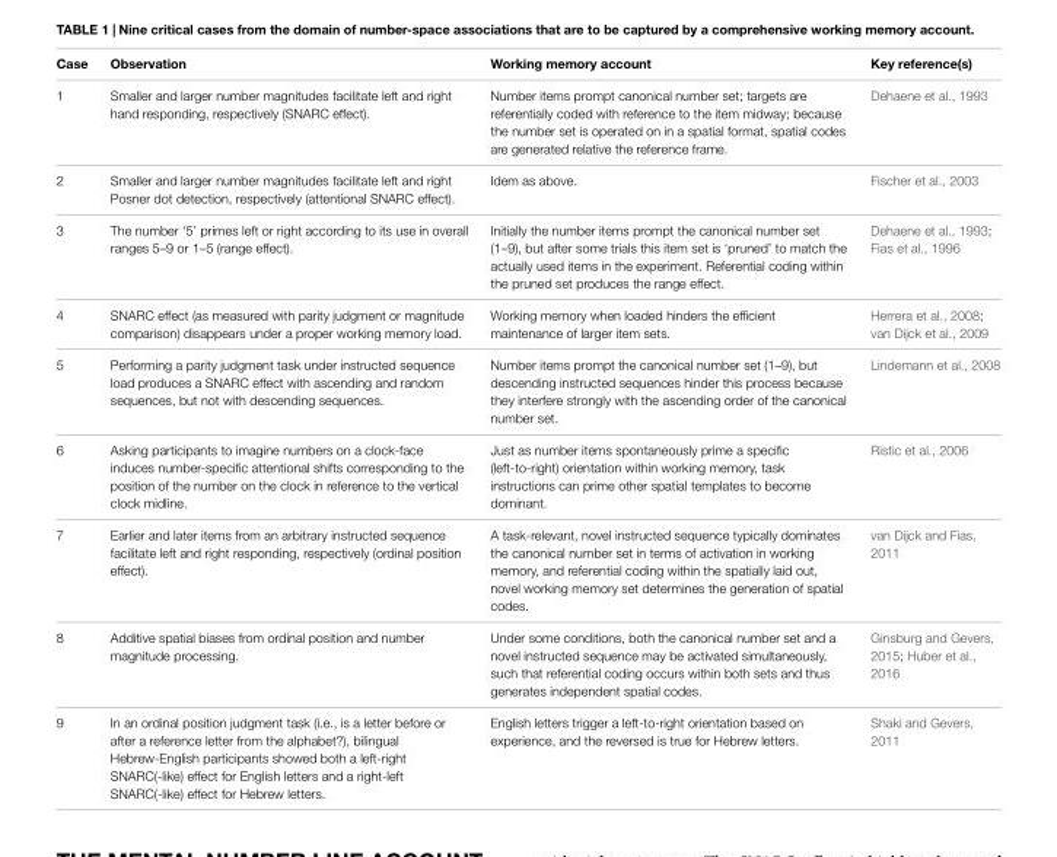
<table><thead><tr><td>Case</td><td>Observation</td><td>Working memory account</td><td>Key reference(s)</td></tr></thead><tbody><tr><td>1</td><td>Smaller and larger number magnitudes facilitate left and right hand responding, respectively (SNARC effect).</td><td>Number items prompt canonical number set; targets are referentially coded with reference to the item midway; because the number set is operated on in a spatial format, spatial codes are generated relative the reference frame.</td><td>Dehaene et al., 1993</td></tr><tr><td>2</td><td>Smaller and larger number magnitudes facilitate left and right Posner dot detection, respectively (attentional SNARC effect).</td><td>Idem as above.</td><td>Fischer et al., 2003</td></tr><tr><td>3</td><td>The number ‘5’ primes left or right according to its use in overall ranges 5–9 or 1–5 (range effect).</td><td>Initially the number items prompt the canonical number set (1–9), but after some trials this item set is ‘pruned’ to match the actually used items in the experiment. Referential coding within the pruned set produces the range effect.</td><td>Dehaene et al., 1993; Fias et al., 1996</td></tr><tr><td>4</td><td>SNARC effect (as measured with parity judgment or magnitude comparison) disappears under a proper working memory load.</td><td>Working memory when loaded hinders the efficient maintenance of larger item sets.</td><td>Herrera et al., 2008; van Dijck et al., 2009</td></tr><tr><td>5</td><td>Performing a parity judgment task under instructed sequence load produces a SNARC effect with ascending and random sequences, but not with descending sequences.</td><td>Number items prompt the canonical number set (1–9), but descending instructed sequences hinder this process because they interfere strongly with the ascending order of the canonical number set.</td><td>Lindemann et al., 2008</td></tr><tr><td>6</td><td>Asking participants to imagine numbers on a clock-face induces number-specific attentional shifts corresponding to the position of the number on the clock in reference to the vertical clock midline.</td><td>Just as number items spontaneously prime a specific (left-to-right) orientation within working memory, task instructions can prime other spatial templates to become dominant.</td><td>Ristic et al., 2006</td></tr><tr><td>7</td><td>Earlier and later items from an arbitrary instructed sequence facilitate left and right responding, respectively (ordinal position effect).</td><td>A task-relevant, novel instructed sequence typically dominates the canonical number set in terms of activation in working memory, and referential coding within the spatially laid out, novel working memory set determines the generation of spatial codes.</td><td>van Dijck and Fias, 2011</td></tr><tr><td>8</td><td>Additive spatial biases from ordinal position and number magnitude processing.</td><td>Under some conditions, both the canonical number set and a novel instructed sequence may be activated simultaneously, such that referential coding occurs within both sets and thus generates independent spatial codes.</td><td>Ginsburg and Gevers, 2015; Huber et al., 2016</td></tr><tr><td>9</td><td>In an ordinal position judgment task (i.e., is a letter before or after a reference letter from the alphabet?), bilingual Hebrew-English participants showed both a left-right SNARC(-like) effect for English letters and a right-left SNARC(-like) effect for Hebrew letters.</td><td>English letters trigger a left-to-right orientation based on experience, and the reversed is true for Hebrew letters.</td><td>Shaki and Gevers, 2011</td></tr></tbody></table>